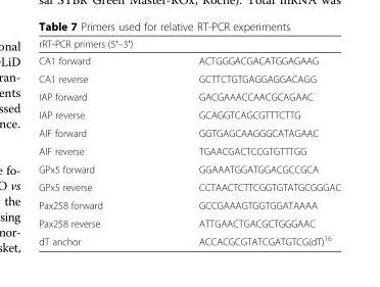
<table><thead><tr><td>rRT-PCR primers (5′–3′)</td><td></td></tr></thead><tbody><tr><td>CA1 forward</td><td>ACTGGGACGACATGGAGAAG</td></tr><tr><td>CA1 reverse</td><td>GCTTCTGTGAGGAGGACAGG</td></tr><tr><td>IAP forward</td><td>GACGAAACCAACGCAGAAC</td></tr><tr><td>IAP reverse</td><td>GCAGGTCAGCGTTTCTTG</td></tr><tr><td>AIF forward</td><td>GGTGAGCAAGGGCATAGAAC</td></tr><tr><td>AIF reverse</td><td>TGAACGACTCCGTGTTTGG</td></tr><tr><td>GPx5 forward</td><td>GGAAATGGATGGACGCCGCA</td></tr><tr><td>GPx5 reverse</td><td>CCTAACTCTTCGGTGTATGCGGGAC</td></tr><tr><td>Pax258 forward</td><td>GCCGAAAGTGGTGGATAAAA</td></tr><tr><td>Pax258 reverse</td><td>ATTGAACTGACGCTGGGAAC</td></tr><tr><td>dT anchor</td><td>ACCACGCGTATCGATGTCG(dT)<sup>16</sup></td></tr></tbody></table>